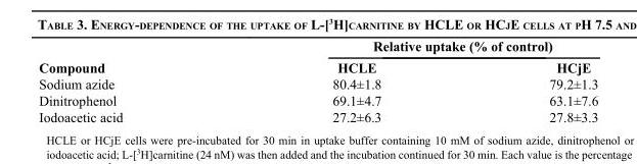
<table><thead><tr><td rowspan="2">Compound</td><td colspan="2">Relative uptake (% of control)</td></tr><tr><td>HCLE</td><td>HCjE</td></tr></thead><tbody><tr><td>Sodium azide</td><td>80.4±1.8</td><td>79.2±1.3</td></tr><tr><td>Dinitrophenol</td><td>69.1±4.7</td><td>63.1±7.6</td></tr><tr><td>Iodoacetic acid</td><td>27.2±6.3</td><td>27.8±3.3</td></tr></tbody></table>